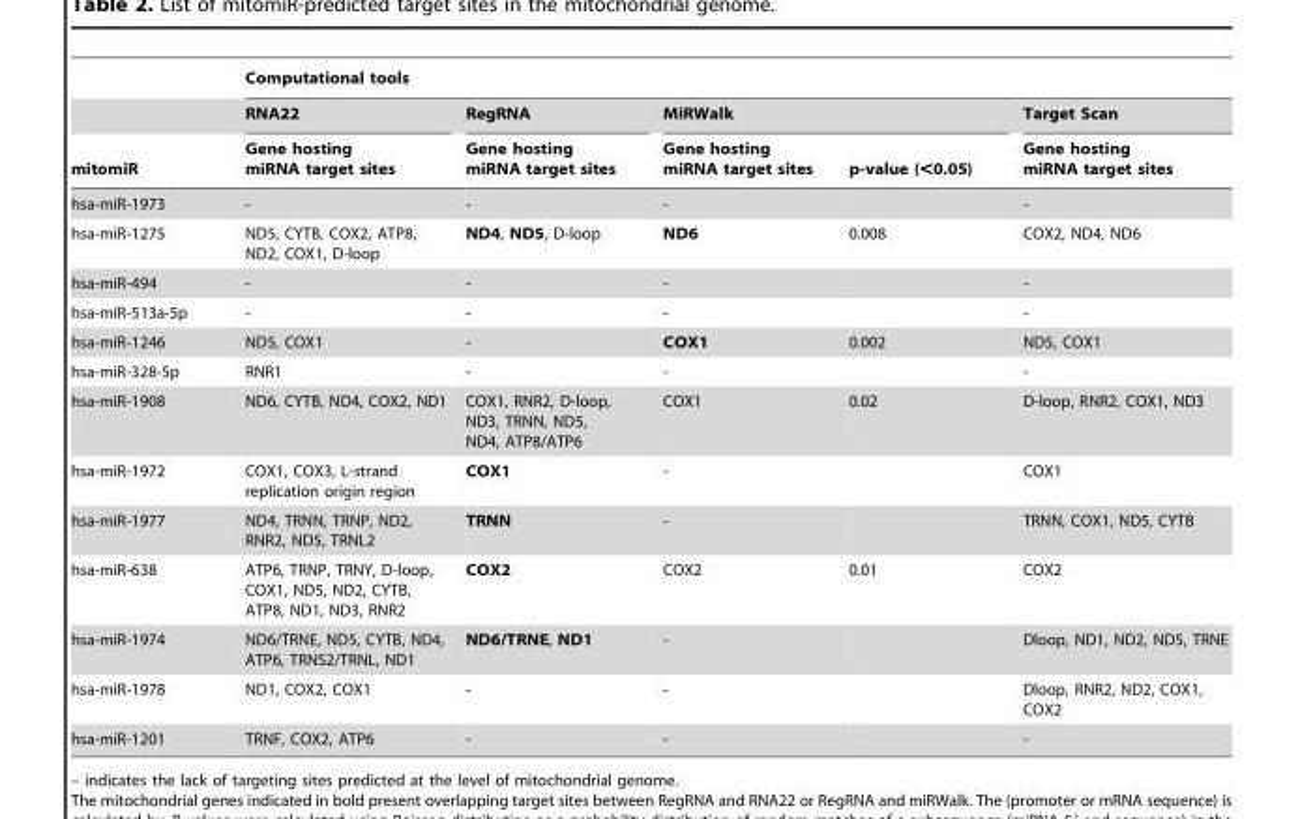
<table><thead><tr><td rowspan="3">mitomiR</td><td colspan="5">Computational tools</td></tr><tr><td rowspan="2">RNA22 Gene hosting miRNA target sites</td><td rowspan="2">RegRNA Gene hosting miRNA target sites</td><td colspan="2">MiRWalk</td><td rowspan="2">Target Scan Gene hosting miRNA target sites</td></tr><tr><td>Gene hosting miRNA target sites</td><td>p-value (&lt;0.05)</td></tr></thead><tbody><tr><td>hsa-miR-1973</td><td>-</td><td>-</td><td>-</td><td></td><td>-</td></tr><tr><td>hsa-miR-1275</td><td>ND5, CYTB, COX2, ATP8, ND2, COX1, D-loop</td><td>ND4, ND5, D-loop</td><td>ND6</td><td>0.008</td><td>COX2, ND4, ND6</td></tr><tr><td>hsa-miR-494</td><td>-</td><td>-</td><td>-</td><td></td><td>-</td></tr><tr><td>hsa-miR-513a-5p</td><td>-</td><td>-</td><td>-</td><td></td><td>-</td></tr><tr><td>hsa-miR-1246</td><td>ND5, COX1</td><td>-</td><td>COX1</td><td>0.002</td><td>ND5, COX1</td></tr><tr><td>hsa-miR-328-5p</td><td>RNR1</td><td>-</td><td>-</td><td></td><td>-</td></tr><tr><td>hsa-miR-1908</td><td>ND6, CYTB, ND4, COX2, ND1</td><td>COX1, RNR2, D-loop, ND3, TRNN, ND5, ND4, ATP8/ATP6</td><td>COX1</td><td>0.02</td><td>D-loop, RNR2, COX1, ND3</td></tr><tr><td>hsa-miR-1972</td><td>COX1, COX3, L-strand replication origin region</td><td>COX1</td><td>-</td><td></td><td>COX1</td></tr><tr><td>hsa-miR-1977</td><td>ND4, TRNN, TRNP, ND2, RNR2, ND5, TRNL2</td><td>TRNN</td><td>-</td><td></td><td>TRNN, COX1, ND5, CYTB</td></tr><tr><td>hsa-miR-638</td><td>ATP6, TRNP, TRNY, D-loop, COX1, ND5, ND2, CYTB, ATP8, ND1, ND3, RNR2</td><td>COX2</td><td>COX2</td><td>0.01</td><td>COX2</td></tr><tr><td>hsa-miR-1974</td><td>ND6/TRNE, ND5, CYTB, ND4, ATP6, TRNS2/TRNL, ND1</td><td>ND6/TRNE, ND1</td><td>-</td><td></td><td>Dloop, ND1, ND2, ND5, TRNE</td></tr><tr><td>hsa-miR-1978</td><td>ND1, COX2, COX1</td><td>-</td><td>-</td><td></td><td>Dloop, RNR2, ND2, COX1, COX2</td></tr><tr><td>hsa-miR-1201</td><td>TRNF, COX2, ATP6</td><td>-</td><td>-</td><td></td><td>-</td></tr></tbody></table>